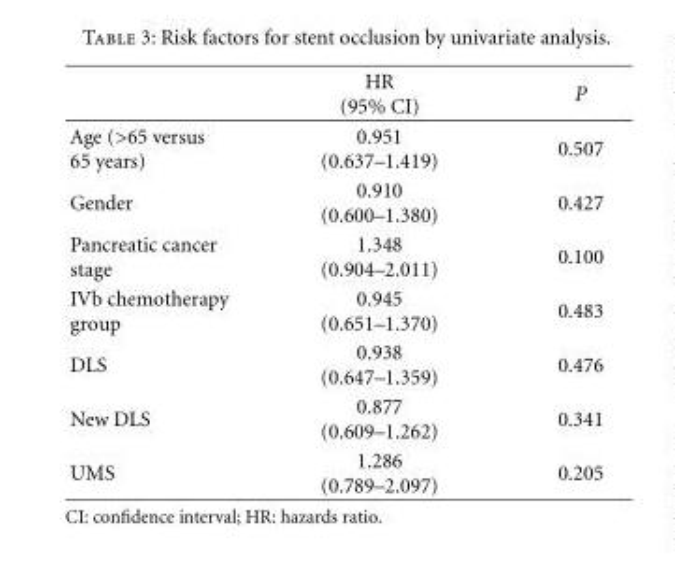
<table><thead><tr><td></td><td>HR (95% CI)</td><td>P</td></tr></thead><tbody><tr><td>Age (&gt;65 versus 65 years)</td><td>0.951 (0.637–1.419)</td><td>0.507</td></tr><tr><td>Gender</td><td>0.910 (0.600–1.380)</td><td>0.427</td></tr><tr><td>Pancreatic cancer stage</td><td>1.348 (0.904–2.011)</td><td>0.100</td></tr><tr><td>IVb chemotherapy group</td><td>0.945 (0.651–1.370)</td><td>0.483</td></tr><tr><td>DLS</td><td>0.938 (0.647–1.359)</td><td>0.476</td></tr><tr><td>New DLS</td><td>0.877 (0.609–1.262)</td><td>0.341</td></tr><tr><td>UMS</td><td>1.286 (0.789–2.097)</td><td>0.205</td></tr></tbody></table>